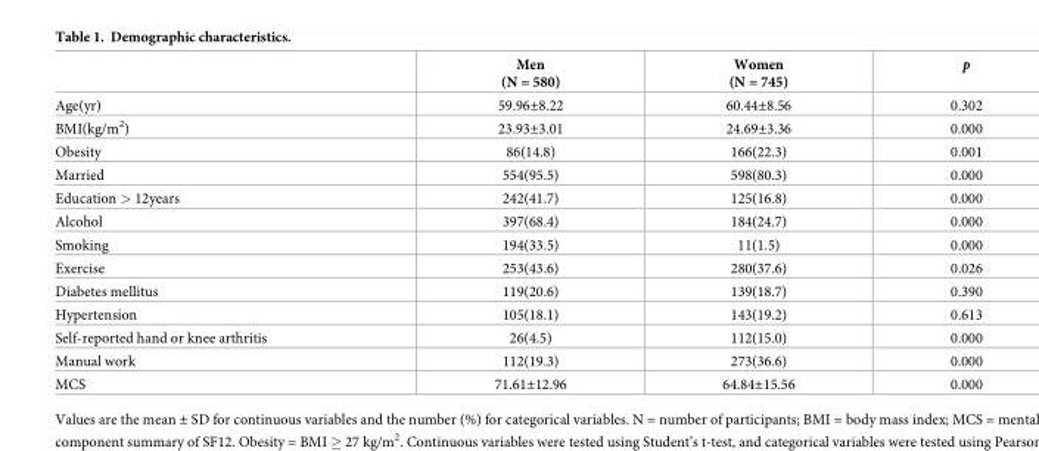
<table><thead><tr><td></td><td>Men (N = 580)</td><td>Women (N = 745)</td><td>p</td></tr></thead><tbody><tr><td>Age(yr)</td><td>59.96±8.22</td><td>60.44±8.56</td><td>0.302</td></tr><tr><td>BMI(kg/m<sup>2</sup>)</td><td>23.93±3.01</td><td>24.69±3.36</td><td>0.000</td></tr><tr><td>Obesity</td><td>86(14.8)</td><td>166(22.3)</td><td>0.001</td></tr><tr><td>Married</td><td>554(95.5)</td><td>598(80.3)</td><td>0.000</td></tr><tr><td>Education &gt; 12years</td><td>242(41.7)</td><td>125(16.8)</td><td>0.000</td></tr><tr><td>Alcohol</td><td>397(68.4)</td><td>184(24.7)</td><td>0.000</td></tr><tr><td>Smoking</td><td>194(33.5)</td><td>11(1.5)</td><td>0.000</td></tr><tr><td>Exercise</td><td>253(43.6)</td><td>280(37.6)</td><td>0.026</td></tr><tr><td>Diabetes mellitus</td><td>119(20.6)</td><td>139(18.7)</td><td>0.390</td></tr><tr><td>Hypertension</td><td>105(18.1)</td><td>143(19.2)</td><td>0.613</td></tr><tr><td>Self-reported hand or knee arthritis</td><td>26(4.5)</td><td>112(15.0)</td><td>0.000</td></tr><tr><td>Manual work</td><td>112(19.3)</td><td>273(36.6)</td><td>0.000</td></tr><tr><td>MCS</td><td>71.61±12.96</td><td>64.84±15.56</td><td>0.000</td></tr></tbody></table>